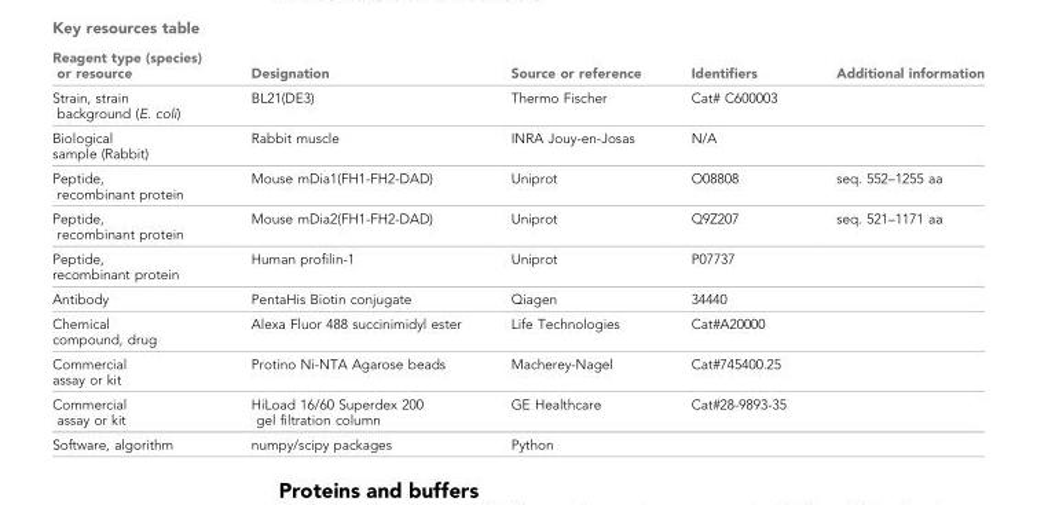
<table><thead><tr><td>Reagent type (species) or resource</td><td>Designation</td><td>Source or reference</td><td>Identifiers</td><td>Additional information</td></tr></thead><tbody><tr><td>Strain, strain background (E. coli)</td><td>BL21(DE3)</td><td>Thermo Fischer</td><td>Cat# C600003</td><td></td></tr><tr><td>Biological sample (Rabbit)</td><td>Rabbit muscle</td><td>INRA Jouy-en-Josas</td><td>N/A</td><td></td></tr><tr><td>Peptide, recombinant protein</td><td>Mouse mDia1(FH1-FH2-DAD)</td><td>Uniprot</td><td>O08808</td><td>seq. 552–1255 aa</td></tr><tr><td>Peptide, recombinant protein</td><td>Mouse mDia2(FH1-FH2-DAD)</td><td>Uniprot</td><td>Q9Z207</td><td>seq. 521–1171 aa</td></tr><tr><td>Peptide, recombinant protein</td><td>Human profilin-1</td><td>Uniprot</td><td>P07737</td><td></td></tr><tr><td>Antibody</td><td>PentaHis Biotin conjugate</td><td>Qiagen</td><td>34440</td><td></td></tr><tr><td>Chemical compound, drug</td><td>Alexa Fluor 488 succinimidyl ester</td><td>Life Technologies</td><td>Cat#A20000</td><td></td></tr><tr><td>Commercial assay or kit</td><td>Protino Ni-NTA Agarose beads</td><td>Macherey-Nagel</td><td>Cat#745400.25</td><td></td></tr><tr><td>Commercial assay or kit</td><td>HiLoad 16/60 Superdex 200 gel filtration column</td><td>GE Healthcare</td><td>Cat#28-9893-35</td><td></td></tr><tr><td>Software, algorithm</td><td>numpy/scipy packages</td><td>Python</td><td></td><td></td></tr></tbody></table>